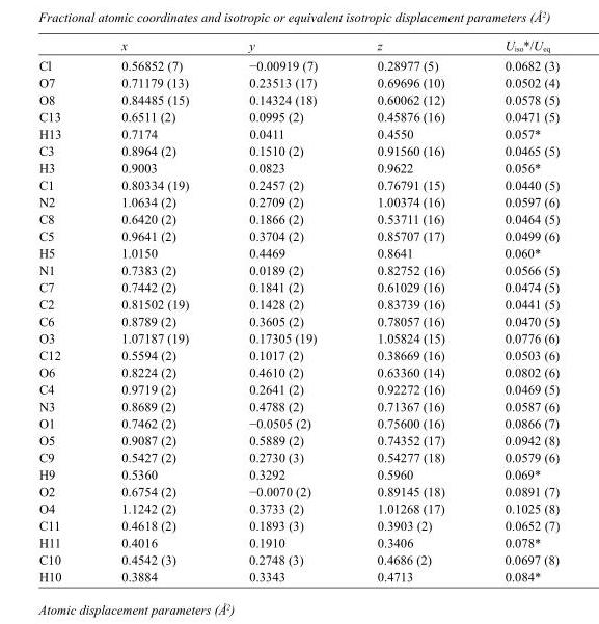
<table><thead><tr><td></td><td>x</td><td>y</td><td>z</td><td>U<sub>iso</sub>*/U<sub>eq</sub></td></tr></thead><tbody><tr><td>Cl</td><td>0.56852 (7)</td><td>−0.00919 (7)</td><td>0.28977 (5)</td><td>0.0682 (3)</td></tr><tr><td>O7</td><td>0.71179 (13)</td><td>0.23513 (17)</td><td>0.69696 (10)</td><td>0.0502 (4)</td></tr><tr><td>O8</td><td>0.84485 (15)</td><td>0.14324 (18)</td><td>0.60062 (12)</td><td>0.0578 (5)</td></tr><tr><td>C13</td><td>0.6511 (2)</td><td>0.0995 (2)</td><td>0.45876 (16)</td><td>0.0471 (5)</td></tr><tr><td>H13</td><td>0.7174</td><td>0.0411</td><td>0.4550</td><td>0.057*</td></tr><tr><td>C3</td><td>0.8964 (2)</td><td>0.1510 (2)</td><td>0.91560 (16)</td><td>0.0465 (5)</td></tr><tr><td>H3</td><td>0.9003</td><td>0.0823</td><td>0.9622</td><td>0.056*</td></tr><tr><td>C1</td><td>0.80334 (19)</td><td>0.2457 (2)</td><td>0.76791 (15)</td><td>0.0440 (5)</td></tr><tr><td>N2</td><td>1.0634 (2)</td><td>0.2709 (2)</td><td>1.00374 (16)</td><td>0.0597 (6)</td></tr><tr><td>C8</td><td>0.6420 (2)</td><td>0.1866 (2)</td><td>0.53711 (16)</td><td>0.0464 (5)</td></tr><tr><td>C5</td><td>0.9641 (2)</td><td>0.3704 (2)</td><td>0.85707 (17)</td><td>0.0499 (6)</td></tr><tr><td>H5</td><td>1.0150</td><td>0.4469</td><td>0.8641</td><td>0.060*</td></tr><tr><td>N1</td><td>0.7383 (2)</td><td>0.0189 (2)</td><td>0.82752 (16)</td><td>0.0566 (5)</td></tr><tr><td>C7</td><td>0.7442 (2)</td><td>0.1841 (2)</td><td>0.61029 (16)</td><td>0.0474 (5)</td></tr><tr><td>C2</td><td>0.81502 (19)</td><td>0.1428 (2)</td><td>0.83739 (16)</td><td>0.0441 (5)</td></tr><tr><td>C6</td><td>0.8789 (2)</td><td>0.3605 (2)</td><td>0.78057 (16)</td><td>0.0470 (5)</td></tr><tr><td>O3</td><td>1.07187 (19)</td><td>0.17305 (19)</td><td>1.05824 (15)</td><td>0.0776 (6)</td></tr><tr><td>C12</td><td>0.5594 (2)</td><td>0.1017 (2)</td><td>0.38669 (16)</td><td>0.0503 (6)</td></tr><tr><td>O6</td><td>0.8224 (2)</td><td>0.4610 (2)</td><td>0.63360 (14)</td><td>0.0802 (6)</td></tr><tr><td>C4</td><td>0.9719 (2)</td><td>0.2641 (2)</td><td>0.92272 (16)</td><td>0.0469 (5)</td></tr><tr><td>N3</td><td>0.8689 (2)</td><td>0.4788 (2)</td><td>0.71367 (16)</td><td>0.0587 (6)</td></tr><tr><td>O1</td><td>0.7462 (2)</td><td>−0.0505 (2)</td><td>0.75600 (16)</td><td>0.0866 (7)</td></tr><tr><td>O5</td><td>0.9087 (2)</td><td>0.5889 (2)</td><td>0.74352 (17)</td><td>0.0942 (8)</td></tr><tr><td>C9</td><td>0.5427 (2)</td><td>0.2730 (3)</td><td>0.54277 (18)</td><td>0.0579 (6)</td></tr><tr><td>H9</td><td>0.5360</td><td>0.3292</td><td>0.5960</td><td>0.069*</td></tr><tr><td>O2</td><td>0.6754 (2)</td><td>−0.0070 (2)</td><td>0.89145 (18)</td><td>0.0891 (7)</td></tr><tr><td>O4</td><td>1.1242 (2)</td><td>0.3733 (2)</td><td>1.01268 (17)</td><td>0.1025 (8)</td></tr><tr><td>C11</td><td>0.4618 (2)</td><td>0.1893 (3)</td><td>0.3903 (2)</td><td>0.0652 (7)</td></tr><tr><td>H11</td><td>0.4016</td><td>0.1910</td><td>0.3406</td><td>0.078*</td></tr><tr><td>C10</td><td>0.4542 (3)</td><td>0.2748 (3)</td><td>0.4686 (2)</td><td>0.0697 (8)</td></tr><tr><td>H10</td><td>0.3884</td><td>0.3343</td><td>0.4713</td><td>0.084*</td></tr></tbody></table>